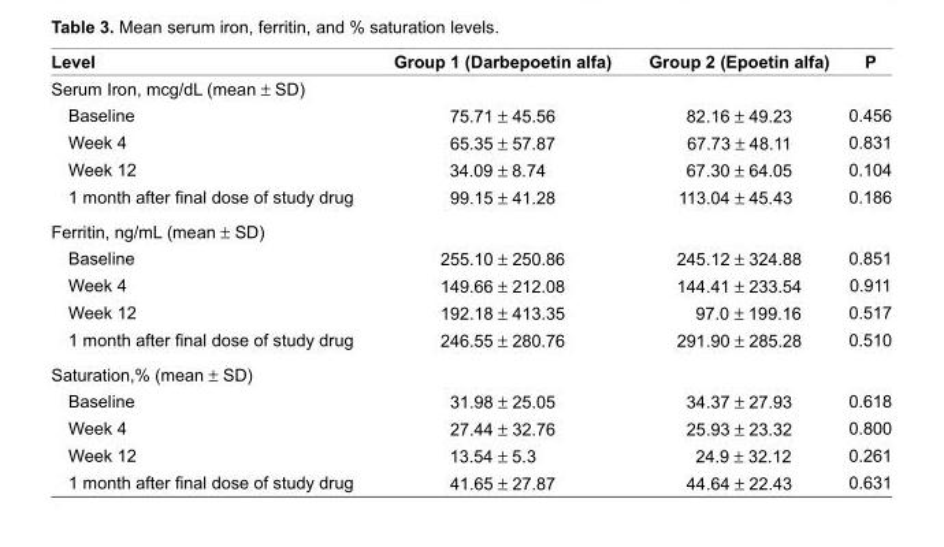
<table><thead><tr><td>Level</td><td>Group 1 (Darbepoetin alfa)</td><td>Group 2 (Epoetin alfa)</td><td>P</td></tr></thead><tbody><tr><td colspan="4">Serum Iron, mcg/dL (mean ± SD)</td></tr><tr><td>Baseline</td><td>75.71 ± 45.56</td><td>82.16 ± 49.23</td><td>0.456</td></tr><tr><td>Week 4</td><td>65.35 ± 57.87</td><td>67.73 ± 48.11</td><td>0.831</td></tr><tr><td>Week 12</td><td>34.09 ± 8.74</td><td>67.30 ± 64.05</td><td>0.104</td></tr><tr><td>1 month after fi nal dose of study drug</td><td>99.15 ± 41.28</td><td>113.04 ± 45.43</td><td>0.186</td></tr><tr><td colspan="4">Ferritin, ng/mL (mean ± SD)</td></tr><tr><td>Baseline</td><td>255.10 ± 250.86</td><td>245.12 ± 324.88</td><td>0.851</td></tr><tr><td>Week 4</td><td>149.66 ± 212.08</td><td>144.41 ± 233.54</td><td>0.911</td></tr><tr><td>Week 12</td><td>192.18 ± 413.35</td><td>97.0 ± 199.16</td><td>0.517</td></tr><tr><td>1 month after fi nal dose of study drug</td><td>246.55 ± 280.76</td><td>291.90 ± 285.28</td><td>0.510</td></tr><tr><td colspan="4">Saturation,% (mean ± SD)</td></tr><tr><td>Baseline</td><td>31.98 ± 25.05</td><td>34.37 ± 27.93</td><td>0.618</td></tr><tr><td>Week 4</td><td>27.44 ± 32.76</td><td>25.93 ± 23.32</td><td>0.800</td></tr><tr><td>Week 12</td><td>13.54 ± 5.3</td><td>24.9 ± 32.12</td><td>0.261</td></tr><tr><td>1 month after fi nal dose of study drug</td><td>41.65 ± 27.87</td><td>44.64 ± 22.43</td><td>0.631</td></tr></tbody></table>